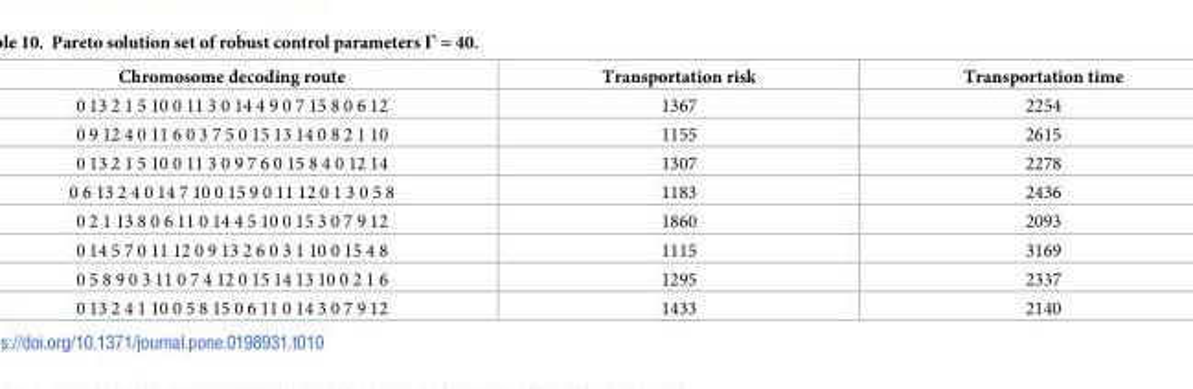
<table><thead><tr><td>Chromosome decoding route</td><td>Transportation risk</td><td>Transportation time</td></tr></thead><tbody><tr><td>0 13 2 1 5 10 0 11 3 0 14 4 9 0 7 15 8 0 6 12</td><td>1367</td><td>2254</td></tr><tr><td>0 9 12 4 0 11 6 0 3 7 5 0 15 13 14 0 8 2 1 10</td><td>1155</td><td>2615</td></tr><tr><td>0 13 2 1 5 10 0 11 3 0 9 7 6 0 15 8 4 0 12 14</td><td>1307</td><td>2278</td></tr><tr><td>0 6 13 2 4 0 14 7 10 0 15 9 0 11 12 0 1 3 0 5 8</td><td>1183</td><td>2436</td></tr><tr><td>0 2 1 13 8 0 6 11 0 14 4 5 10 0 15 3 0 7 9 12</td><td>1860</td><td>2093</td></tr><tr><td>0 14 5 7 0 11 12 0 9 13 2 6 0 3 1 10 0 15 4 8</td><td>1115</td><td>3169</td></tr><tr><td>0 5 8 9 0 3 11 0 7 4 12 0 15 14 13 10 0 2 1 6</td><td>1295</td><td>2337</td></tr><tr><td>0 13 2 4 1 10 0 5 8 15 0 6 11 0 14 3 0 7 9 12</td><td>1433</td><td>2140</td></tr></tbody></table>